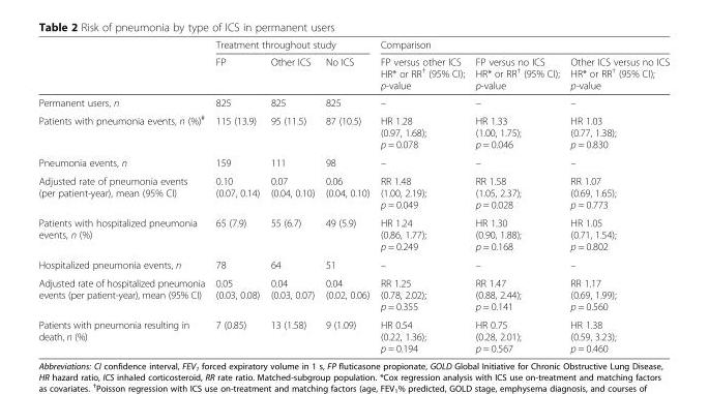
<table><thead><tr><td rowspan="2"></td><td colspan="3">Treatment throughout study</td><td colspan="3">Comparison</td></tr><tr><td>FP</td><td>Other ICS</td><td>No ICS</td><td>FP versus other ICS HR* or RR<sup>†</sup> (95% CI); p-value</td><td>FP versus no ICS HR* or RR<sup>†</sup> (95% CI); p-value</td><td>Other ICS versus no ICS HR* or RR<sup>†</sup> (95% CI); p-value</td></tr></thead><tbody><tr><td>Permanent users, n</td><td>825</td><td>825</td><td>825</td><td>–</td><td>–</td><td>–</td></tr><tr><td>Patients with pneumonia events, n (%)<sup>#</sup></td><td>115 (13.9)</td><td>95 (11.5)</td><td>87 (10.5)</td><td>HR 1.28 (0.97, 1.68); p = 0.078</td><td>HR 1.33 (1.00, 1.75); p = 0.046</td><td>HR 1.03 (0.77, 1.38); p = 0.830</td></tr><tr><td>Pneumonia events, n</td><td>159</td><td>111</td><td>98</td><td>–</td><td>–</td><td>–</td></tr><tr><td>Adjusted rate of pneumonia events (per patient-year), mean (95% CI)</td><td>0.10 (0.07, 0.14)</td><td>0.07 (0.04, 0.10)</td><td>0.06 (0.04, 0.10)</td><td>RR 1.48 (1.00, 2.19); p = 0.049</td><td>RR 1.58 (1.05, 2.37); p = 0.028</td><td>RR 1.07 (0.69, 1.65); p = 0.773</td></tr><tr><td>Patients with hospitalized pneumonia events, n (%)</td><td>65 (7.9)</td><td>55 (6.7)</td><td>49 (5.9)</td><td>HR 1.24 (0.86, 1.77); p = 0.249</td><td>HR 1.30 (0.90, 1.88); p = 0.168</td><td>HR 1.05 (0.71, 1.54); p = 0.802</td></tr><tr><td>Hospitalized pneumonia events, n</td><td>78</td><td>64</td><td>51</td><td>–</td><td>–</td><td>–</td></tr><tr><td>Adjusted rate of hospitalized pneumonia events (per patient-year), mean (95% CI)</td><td>0.05 (0.03, 0.08)</td><td>0.04 (0.03, 0.07)</td><td>0.04 (0.02, 0.06)</td><td>RR 1.25 (0.78, 2.02); p = 0.355</td><td>RR 1.47 (0.88, 2.44); p = 0.141</td><td>RR 1.17 (0.69, 1.99); p = 0.560</td></tr><tr><td>Patients with pneumonia resulting in death, n (%)</td><td>7 (0.85)</td><td>13 (1.58)</td><td>9 (1.09)</td><td>HR 0.54 (0.22, 1.36); p = 0.194</td><td>HR 0.75 (0.28, 2.01); p = 0.567</td><td>HR 1.38 (0.59, 3.23); p = 0.460</td></tr></tbody></table>